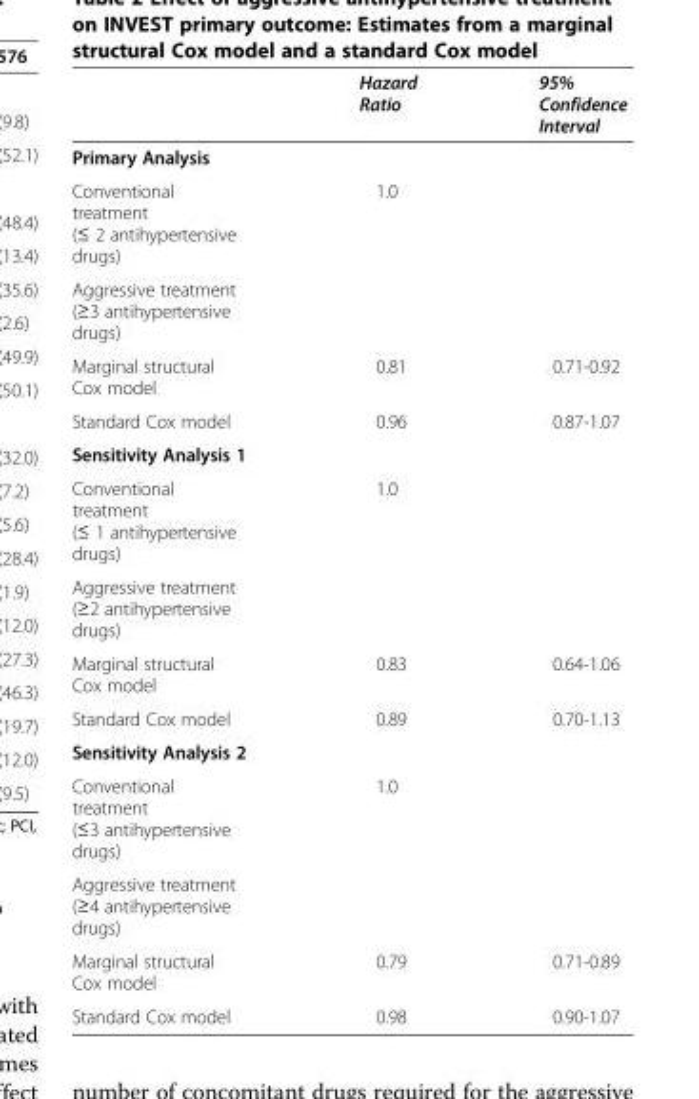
<table><thead><tr><td></td><td>Hazard Ratio</td><td>95% Confidence Interval</td></tr></thead><tbody><tr><td colspan="3">Primary Analysis</td></tr><tr><td>Conventional treatment (≤ 2 antihypertensive drugs)</td><td>1.0</td><td></td></tr><tr><td colspan="3">Aggressive treatment (≥3 antihypertensive drugs)</td></tr><tr><td>Marginal structural Cox model</td><td>0.81</td><td>0.71-0.92</td></tr><tr><td>Standard Cox model</td><td>0.96</td><td>0.87-1.07</td></tr><tr><td colspan="3">Sensitivity Analysis 1</td></tr><tr><td>Conventional treatment (≤ 1 antihypertensive drugs)</td><td>1.0</td><td></td></tr><tr><td colspan="3">Aggressive treatment (≥2 antihypertensive drugs)</td></tr><tr><td>Marginal structural Cox model</td><td>0.83</td><td>0.64-1.06</td></tr><tr><td>Standard Cox model</td><td>0.89</td><td>0.70-1.13</td></tr><tr><td colspan="3">Sensitivity Analysis 2</td></tr><tr><td>Conventional treatment (≤3 antihypertensive drugs)</td><td>1.0</td><td></td></tr><tr><td colspan="3">Aggressive treatment (≥4 antihypertensive drugs)</td></tr><tr><td>Marginal structural Cox model</td><td>0.79</td><td>0.71-0.89</td></tr><tr><td>Standard Cox model</td><td>0.98</td><td>0.90-1.07</td></tr></tbody></table>